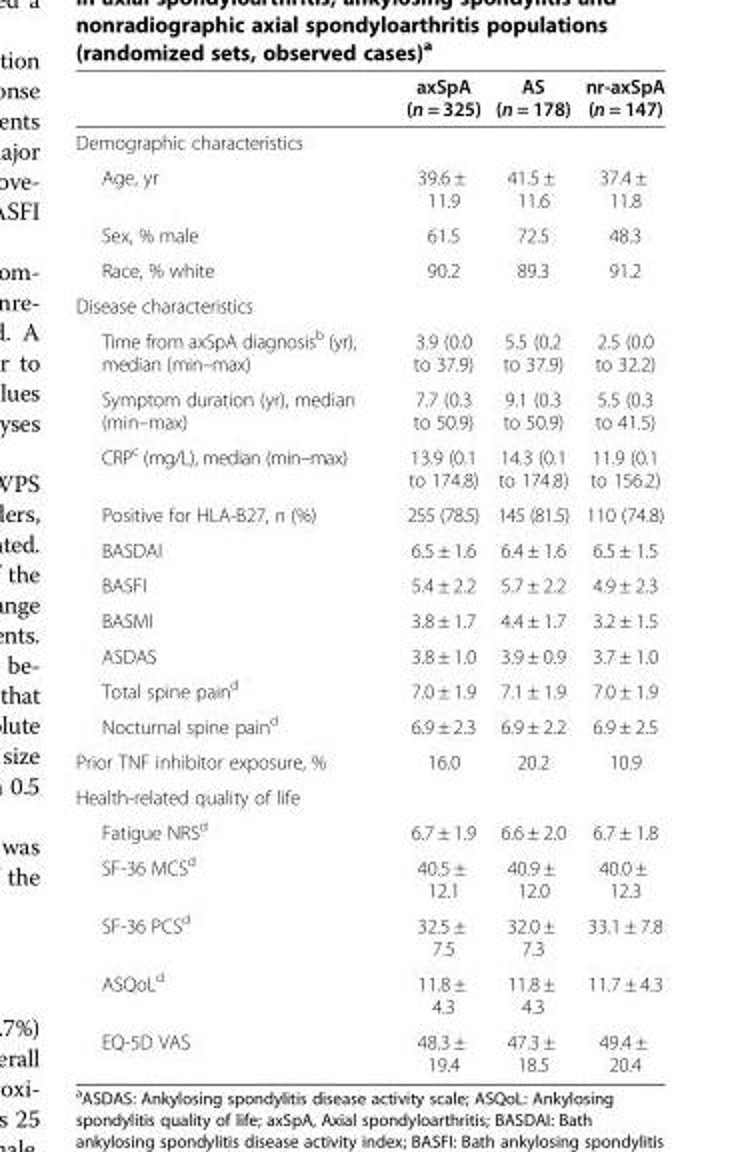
<table><thead><tr><td></td><td>axSpA (n = 325)</td><td>AS (n = 178)</td><td>nr-axSpA (n = 147)</td></tr></thead><tbody><tr><td colspan="4">Demographic characteristics</td></tr><tr><td>Age, yr</td><td>39.6 ± 11.9</td><td>41.5 ± 11.6</td><td>37.4 ± 11.8</td></tr><tr><td>Sex, % male</td><td>61.5</td><td>72.5</td><td>48.3</td></tr><tr><td>Race, % white</td><td>90.2</td><td>89.3</td><td>91.2</td></tr><tr><td colspan="4">Disease characteristics</td></tr><tr><td>Time from axSpA diagnosis<sup>b</sup> (yr), median (min–max)</td><td>3.9 (0.0 to 37.9)</td><td>5.5 (0.2 to 37.9)</td><td>2.5 (0.0 to 32.2)</td></tr><tr><td>Symptom duration (yr), median (min–max)</td><td>7.7 (0.3 to 50.9)</td><td>9.1 (0.3 to 50.9)</td><td>5.5 (0.3 to 41.5)</td></tr><tr><td>CRP<sup>c</sup> (mg/L), median (min–max)</td><td>13.9 (0.1 to 174.8)</td><td>14.3 (0.1 to 174.8)</td><td>11.9 (0.1 to 156.2)</td></tr><tr><td>Positive for HLA-B27, n (%)</td><td>255 (78.5)</td><td>145 (81.5)</td><td>110 (74.8)</td></tr><tr><td>BASDAI</td><td>6.5 ± 1.6</td><td>6.4 ± 1.6</td><td>6.5 ± 1.5</td></tr><tr><td>BASFI</td><td>5.4 ± 2.2</td><td>5.7 ± 2.2</td><td>4.9 ± 2.3</td></tr><tr><td>BASMI</td><td>3.8 ± 1.7</td><td>4.4 ± 1.7</td><td>3.2 ± 1.5</td></tr><tr><td>ASDAS</td><td>3.8 ± 1.0</td><td>3.9 ± 0.9</td><td>3.7 ± 1.0</td></tr><tr><td>Total spine pain<sup>d</sup></td><td>7.0 ± 1.9</td><td>7.1 ± 1.9</td><td>7.0 ± 1.9</td></tr><tr><td>Nocturnal spine pain<sup>d</sup></td><td>6.9 ± 2.3</td><td>6.9 ± 2.2</td><td>6.9 ± 2.5</td></tr><tr><td>Prior TNF inhibitor exposure, %</td><td>16.0</td><td>20.2</td><td>10.9</td></tr><tr><td colspan="4">Health-related quality of life</td></tr><tr><td>Fatigue NRS<sup>d</sup></td><td>6.7 ± 1.9</td><td>6.6 ± 2.0</td><td>6.7 ± 1.8</td></tr><tr><td>SF-36 MCS<sup>d</sup></td><td>40.5 ± 12.1</td><td>40.9 ± 12.0</td><td>40.0 ± 12.3</td></tr><tr><td>SF-36 PCS<sup>d</sup></td><td>32.5 ± 7.5</td><td>32.0 ± 7.3</td><td>33.1 ± 7.8</td></tr><tr><td>ASQoL<sup>d</sup></td><td>11.8 ± 4.3</td><td>11.8 ± 4.3</td><td>11.7 ± 4.3</td></tr><tr><td>EQ-5D VAS</td><td>48.3 ± 19.4</td><td>47.3 ± 18.5</td><td>49.4 ± 20.4</td></tr></tbody></table>